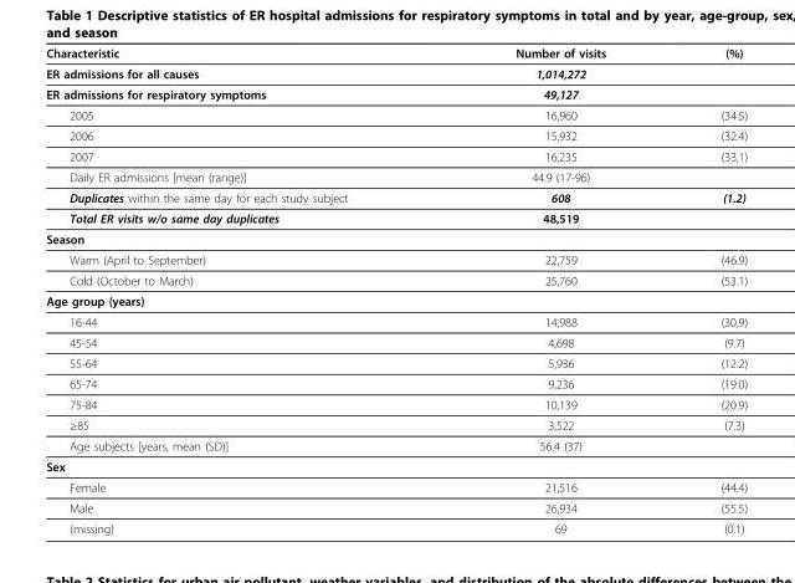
<table><thead><tr><td>Characteristic</td><td>Number of visits</td><td>(%)</td></tr></thead><tbody><tr><td>ER admissions for all causes</td><td>1,014,272</td><td></td></tr><tr><td>ER admissions for respiratory symptoms</td><td>49,127</td><td></td></tr><tr><td>2005</td><td>16,960</td><td>(34.5)</td></tr><tr><td>2006</td><td>15,932</td><td>(32.4)</td></tr><tr><td>2007</td><td>16,235</td><td>(33,1)</td></tr><tr><td>Daily ER admissions [mean (range)]</td><td>44.9 (17-96)</td><td></td></tr><tr><td>Duplicates within the same day for each study subject</td><td>608</td><td>(1.2)</td></tr><tr><td>Total ER visits w/o same day duplicates</td><td>48,519</td><td></td></tr><tr><td colspan="3">Season</td></tr><tr><td>Warm (April to September)</td><td>22,759</td><td>(46.9)</td></tr><tr><td>Cold (October to March)</td><td>25,760</td><td>(53.1)</td></tr><tr><td colspan="3">Age group (years)</td></tr><tr><td>16-44</td><td>14,988</td><td>(30,9)</td></tr><tr><td>45-54</td><td>4,698</td><td>(9.7)</td></tr><tr><td>55-64</td><td>5,936</td><td>(12.2)</td></tr><tr><td>65-74</td><td>9,236</td><td>(19.0)</td></tr><tr><td>75-84</td><td>10,139</td><td>(20.9)</td></tr><tr><td>≥85</td><td>3,522</td><td>(7.3)</td></tr><tr><td>Age subjects [years, mean (SD)]</td><td>56.4 (37)</td><td></td></tr><tr><td colspan="3">Sex</td></tr><tr><td>Female</td><td>21,516</td><td>(44.4)</td></tr><tr><td>Male</td><td>26,934</td><td>(55.5)</td></tr><tr><td>(missing)</td><td>69</td><td>(0.1)</td></tr></tbody></table>